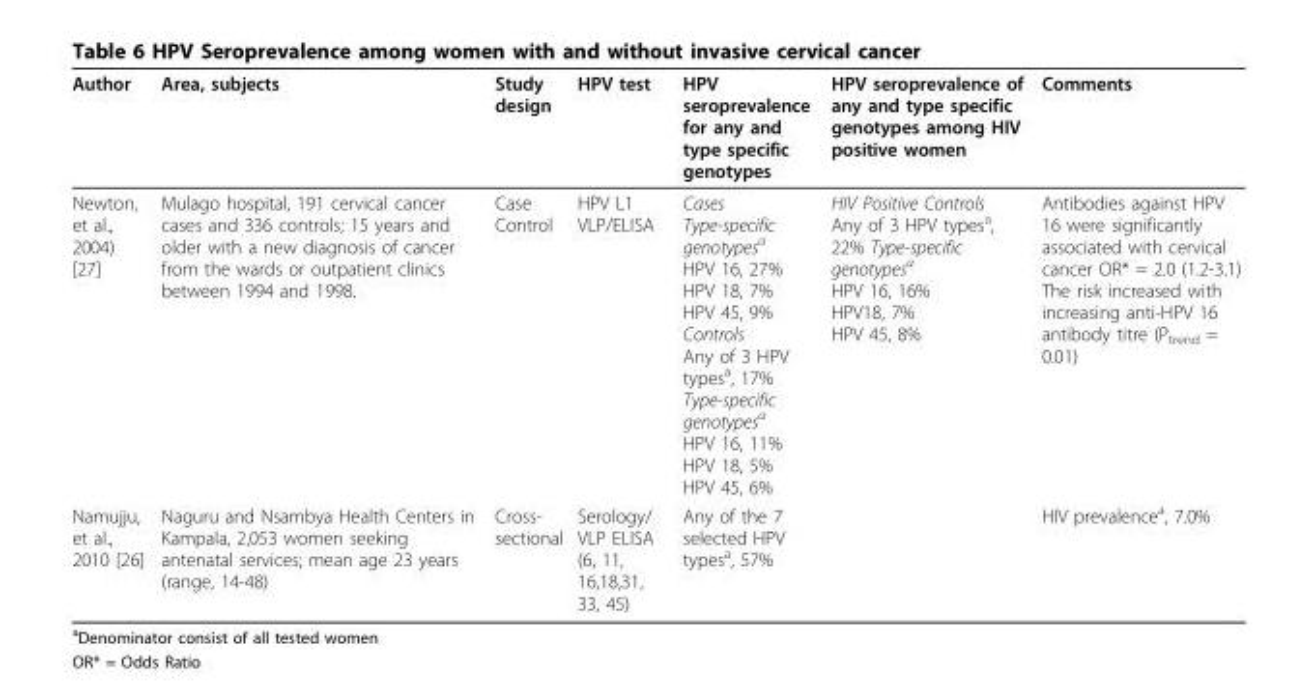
<table><thead><tr><td>Author</td><td>Area, subjects</td><td>Study design</td><td>HPV test</td><td>HPV seroprevalence for any and type specific genotypes</td><td>HPV seroprevalence of any and type specific genotypes among HIV positive women</td><td>Comments</td></tr></thead><tbody><tr><td>Newton, et al., 2004) [27]</td><td>Mulago hospital, 191 cervical cancer cases and 336 controls; 15 years and older with a new diagnosis of cancer from the wards or outpatient clinics between 1994 and 1998.</td><td>Case Control</td><td>HPV L1 VLP/ELISA</td><td>Cases Type-specific genotypes<sup>a</sup> HPV 16, 27% HPV 18, 7% HPV 45, 9% Controls Any of 3 HPV types<sup>a</sup>, 17% Type-specific genotypes<sup>a</sup> HPV 16, 11% HPV 18, 5% HPV 45, 6%</td><td>HIV Positive Controls Any of 3 HPV types<sup>a</sup>, 22% Type-specific genotypes<sup>a</sup> HPV 16, 16% HPV18, 7% HPV 45, 8%</td><td>Antibodies against HPV 16 were significantly associated with cervical cancer OR* = 2.0 (1.2-3.1) The risk increased with increasing anti-HPV 16 antibody titre (P<sub>trend</sub> = 0.01)</td></tr><tr><td>Namujju, et al., 2010 [26]</td><td>Naguru and Nsambya Health Centers in Kampala, 2,053 women seeking antenatal services; mean age 23 years (range, 14-48)</td><td>Cross- sectional</td><td>Serology/ VLP ELISA (6, 11, 16,18,31, 33, 45)</td><td>Any of the 7 selected HPV types<sup>a</sup>, 57%</td><td></td><td>HIV prevalence<sup>a</sup>, 7.0%</td></tr></tbody></table>